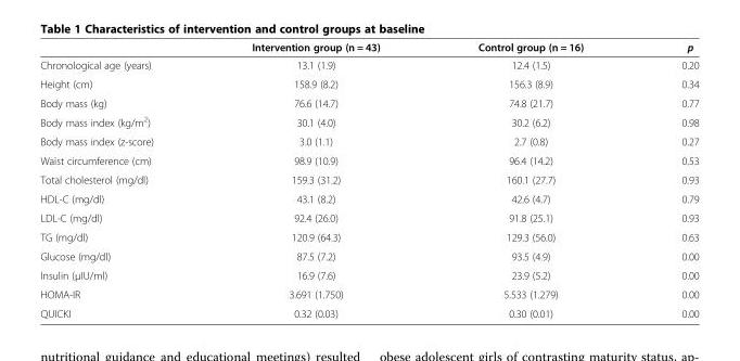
<table><thead><tr><td></td><td>Intervention group (n = 43)</td><td>Control group (n = 16)</td><td>p</td></tr></thead><tbody><tr><td>Chronological age (years)</td><td>13.1 (1.9)</td><td>12.4 (1.5)</td><td>0.20</td></tr><tr><td>Height (cm)</td><td>158.9 (8.2)</td><td>156.3 (8.9)</td><td>0.34</td></tr><tr><td>Body mass (kg)</td><td>76.6 (14.7)</td><td>74.8 (21.7)</td><td>0.77</td></tr><tr><td>Body mass index (kg/m<sup>2</sup>)</td><td>30.1 (4.0)</td><td>30.2 (6.2)</td><td>0.98</td></tr><tr><td>Body mass index (z-score)</td><td>3.0 (1.1)</td><td>2.7 (0.8)</td><td>0.27</td></tr><tr><td>Waist circumference (cm)</td><td>98.9 (10.9)</td><td>96.4 (14.2)</td><td>0.53</td></tr><tr><td>Total cholesterol (mg/dl)</td><td>159.3 (31.2)</td><td>160.1 (27.7)</td><td>0.93</td></tr><tr><td>HDL-C (mg/dl)</td><td>43.1 (8.2)</td><td>42.6 (4.7)</td><td>0.79</td></tr><tr><td>LDL-C (mg/dl)</td><td>92.4 (26.0)</td><td>91.8 (25.1)</td><td>0.93</td></tr><tr><td>TG (mg/dl)</td><td>120.9 (64.3)</td><td>129.3 (56.0)</td><td>0.63</td></tr><tr><td>Glucose (mg/dl)</td><td>87.5 (7.2)</td><td>93.5 (4.9)</td><td>0.00</td></tr><tr><td>Insulin (μIU/ml)</td><td>16.9 (7.6)</td><td>23.9 (5.2)</td><td>0.00</td></tr><tr><td>HOMA-IR</td><td>3.691 (1.750)</td><td>5.533 (1.279)</td><td>0.00</td></tr><tr><td>QUICKI</td><td>0.32 (0.03)</td><td>0.30 (0.01)</td><td>0.00</td></tr></tbody></table>